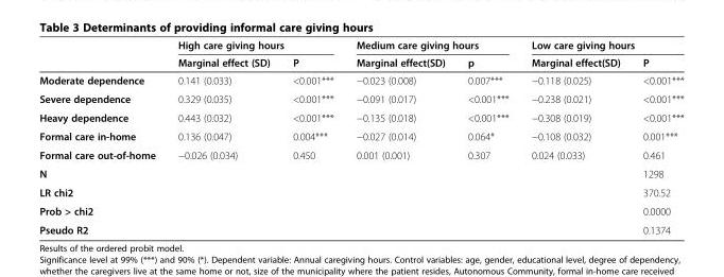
<table><thead><tr><td rowspan="2"></td><td colspan="2">High care giving hours</td><td colspan="2">Medium care giving hours</td><td colspan="2">Low care giving hours</td></tr><tr><td>Marginal effect (SD)</td><td>P</td><td>Marginal effect(SD)</td><td>p</td><td>Marginal effect(SD)</td><td>P</td></tr></thead><tbody><tr><td>Moderate dependence</td><td>0.141 (0.033)</td><td>&lt;0.001***</td><td>−0.023 (0.008)</td><td>0.007***</td><td>−0.118 (0.025)</td><td>&lt;0.001***</td></tr><tr><td>Severe dependence</td><td>0.329 (0.035)</td><td>&lt;0.001***</td><td>−0.091 (0.017)</td><td>&lt;0.001***</td><td>−0.238 (0.021)</td><td>&lt;0.001***</td></tr><tr><td>Heavy dependence</td><td>0.443 (0.032)</td><td>&lt;0.001***</td><td>−0.135 (0.018)</td><td>&lt;0.001***</td><td>−0.308 (0.019)</td><td>&lt;0.001***</td></tr><tr><td>Formal care in-home</td><td>0.136 (0.047)</td><td>0.004***</td><td>−0.027 (0.014)</td><td>0.064*</td><td>−0.108 (0.032)</td><td>0.001***</td></tr><tr><td>Formal care out-of-home</td><td>−0.026 (0.034)</td><td>0.450</td><td>0.001 (0.001)</td><td>0.307</td><td>0.024 (0.033)</td><td>0.461</td></tr><tr><td>N</td><td></td><td></td><td></td><td></td><td></td><td>1298</td></tr><tr><td>LR chi2</td><td></td><td></td><td></td><td></td><td></td><td>370.52</td></tr><tr><td>Prob &gt; chi2</td><td></td><td></td><td></td><td></td><td></td><td>0.0000</td></tr><tr><td>Pseudo R2</td><td></td><td></td><td></td><td></td><td></td><td>0.1374</td></tr></tbody></table>